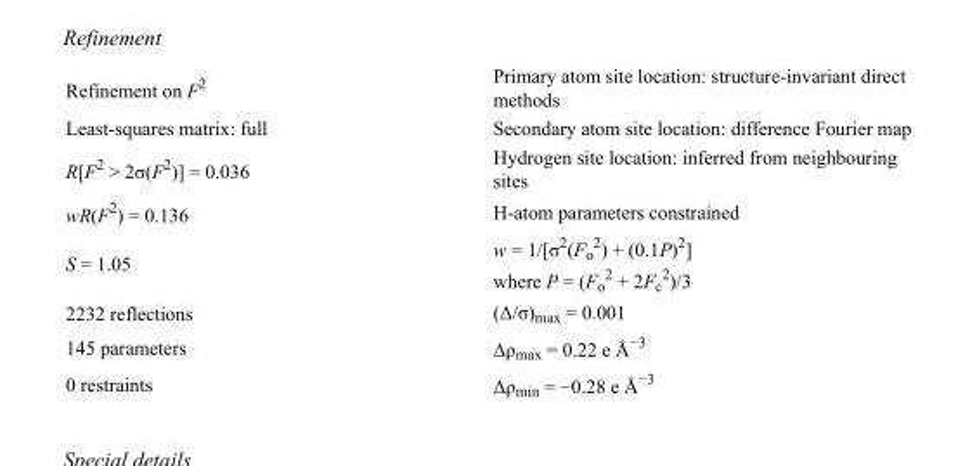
<table><tbody><tr><td>Refinement on F<sup>2</sup></td><td>Primary atom site location: structure-invariant direct methods</td></tr><tr><td>Least-squares matrix: full</td><td>Secondary atom site location: difference Fourier map</td></tr><tr><td>R[F<sup>2</sup> &gt; 2σ(F<sup>2</sup>)] = 0.036</td><td>Hydrogen site location: inferred from neighbouring sites</td></tr><tr><td>wR(F<sup>2</sup>) = 0.136</td><td>H-atom parameters constrained</td></tr><tr><td>S = 1.05</td><td>w = 1/[σ<sup>2</sup>(F<sub>o</sub> <sup>2</sup>) + (0.1P)<sup>2</sup>] where P = (F<sub>o</sub> <sup>2</sup> + 2F<sub>c</sub> <sup>2</sup>)/3</td></tr><tr><td>2232 reflections</td><td>(Δ/σ)<sub>max</sub> = 0.001</td></tr><tr><td>145 parameters</td><td>Δρ<sub>max</sub> = 0.22 e Å<sup>−3</sup></td></tr><tr><td>0 restraints</td><td>Δρ<sub>min</sub> = −0.28 e Å<sup>−3</sup></td></tr></tbody></table>